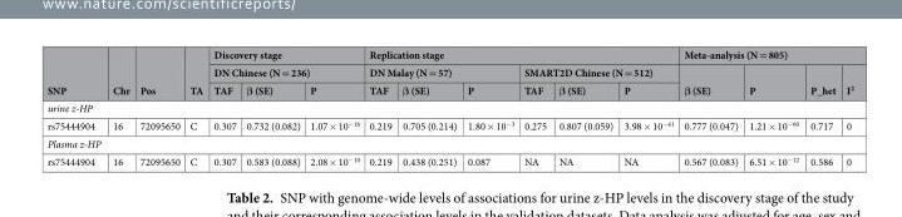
<table><thead><tr><td rowspan="3">SNP</td><td rowspan="3">Chr</td><td rowspan="3">Pos</td><td rowspan="3">TA</td><td rowspan="2" colspan="3">Discovery stage DN Chinese (N = 236)</td><td colspan="6">Replication stage</td><td colspan="4">Meta-analysis (N = 805)</td></tr><tr><td colspan="3">DN Malay (N = 57)</td><td colspan="3">SMART2D Chinese (N = 512)</td><td rowspan="2">β (SE)</td><td rowspan="2">P</td><td rowspan="2">P_het</td><td rowspan="2">I<sup>2</sup></td></tr><tr><td>TAF</td><td>β (SE)</td><td>P</td><td>TAF</td><td>β (SE)</td><td>P</td><td>TAF</td><td>β (SE)</td><td>P</td></tr></thead><tbody><tr><td colspan="17">urine z-HP</td></tr><tr><td>rs75444904</td><td>16</td><td>72095650</td><td>C</td><td>0.307</td><td>0.732 (0.082)</td><td>1.07 × 10<sup>−16</sup></td><td>0.219</td><td>0.705 (0.214)</td><td>1.80 × 10<sup>−3</sup></td><td>0.275</td><td>0.807 (0.059)</td><td>3.98 × 10<sup>−41</sup></td><td>0.777 (0.047)</td><td>1.21 × 10<sup>−60</sup></td><td>0.717</td><td>0</td></tr><tr><td colspan="17">Plasma z-HP</td></tr><tr><td>rs75444904</td><td>16</td><td>72095650</td><td>C</td><td>0.307</td><td>0.583 (0.088)</td><td>2.08 × 10<sup>−10</sup></td><td>0.219</td><td>0.438 (0.251)</td><td>0.087</td><td>NA</td><td>NA</td><td>NA</td><td>0.567 (0.083)</td><td>6.51 × 10<sup>−12</sup></td><td>0.586</td><td>0</td></tr></tbody></table>